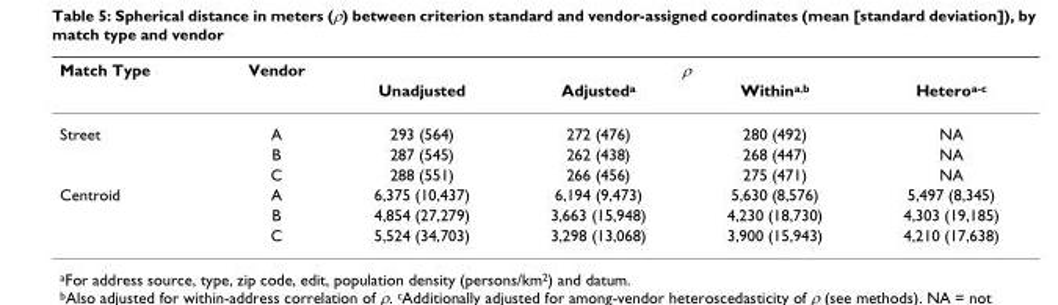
<table><thead><tr><td rowspan="2">Match Type</td><td rowspan="2">Vendor</td><td colspan="4">ρ</td></tr><tr><td>Unadjusted</td><td>Adjusted<sup>a</sup></td><td>Within<sup>a,b</sup></td><td>Hetero<sup>a-c</sup></td></tr></thead><tbody><tr><td rowspan="3">Street</td><td>A</td><td>293 (564)</td><td>272 (476)</td><td>280 (492)</td><td>NA</td></tr><tr><td>B</td><td>287 (545)</td><td>262 (438)</td><td>268 (447)</td><td>NA</td></tr><tr><td>C</td><td>288 (551)</td><td>266 (456)</td><td>275 (471)</td><td>NA</td></tr><tr><td rowspan="3">Centroid</td><td>A</td><td>6,375 (10,437)</td><td>6,194 (9,473)</td><td>5,630 (8,576)</td><td>5,497 (8,345)</td></tr><tr><td>B</td><td>4,854 (27,279)</td><td>3,663 (15,948)</td><td>4,230 (18,730)</td><td>4,303 (19,185)</td></tr><tr><td>C</td><td>5,524 (34,703)</td><td>3,298 (13,068)</td><td>3,900 (15,943)</td><td>4,210 (17,638)</td></tr></tbody></table>